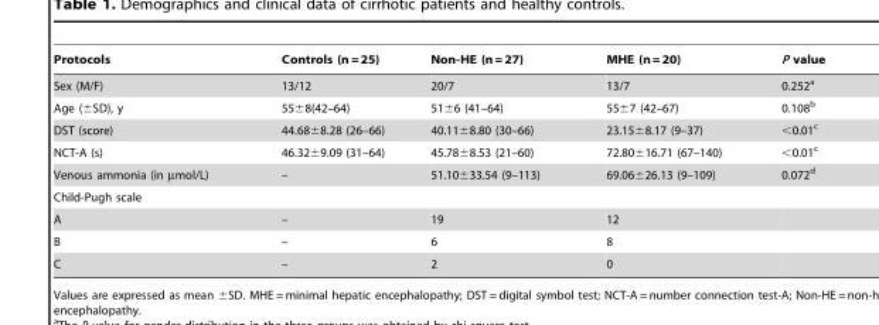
<table><thead><tr><td>Protocols</td><td>Controls (n = 25)</td><td>Non-HE (n = 27)</td><td>MHE (n = 20)</td><td>P value</td></tr></thead><tbody><tr><td>Sex (M/F)</td><td>13/12</td><td>20/7</td><td>13/7</td><td>0.252<sup>a</sup></td></tr><tr><td>Age (±SD), y</td><td>55±8(42–64)</td><td>51±6 (41–64)</td><td>55±7 (42–67)</td><td>0.108<sup>b</sup></td></tr><tr><td>DST (score)</td><td>44.68±8.28 (26–66)</td><td>40.11±8.80 (30–66)</td><td>23.15±8.17 (9–37)</td><td>&lt;0.01<sup>c</sup></td></tr><tr><td>NCT-A (s)</td><td>46.32±9.09 (31–64)</td><td>45.78±8.53 (21–60)</td><td>72.80±16.71 (67–140)</td><td>&lt;0.01<sup>c</sup></td></tr><tr><td>Venous ammonia (in µmol/L)</td><td>–</td><td>51.10±33.54 (9–113)</td><td>69.06±26.13 (9–109)</td><td>0.072<sup>d</sup></td></tr><tr><td colspan="5">Child-Pugh scale</td></tr><tr><td>A</td><td>–</td><td>19</td><td>12</td><td></td></tr><tr><td>B</td><td>–</td><td>6</td><td>8</td><td></td></tr><tr><td>C</td><td>–</td><td>2</td><td>0</td><td></td></tr></tbody></table>